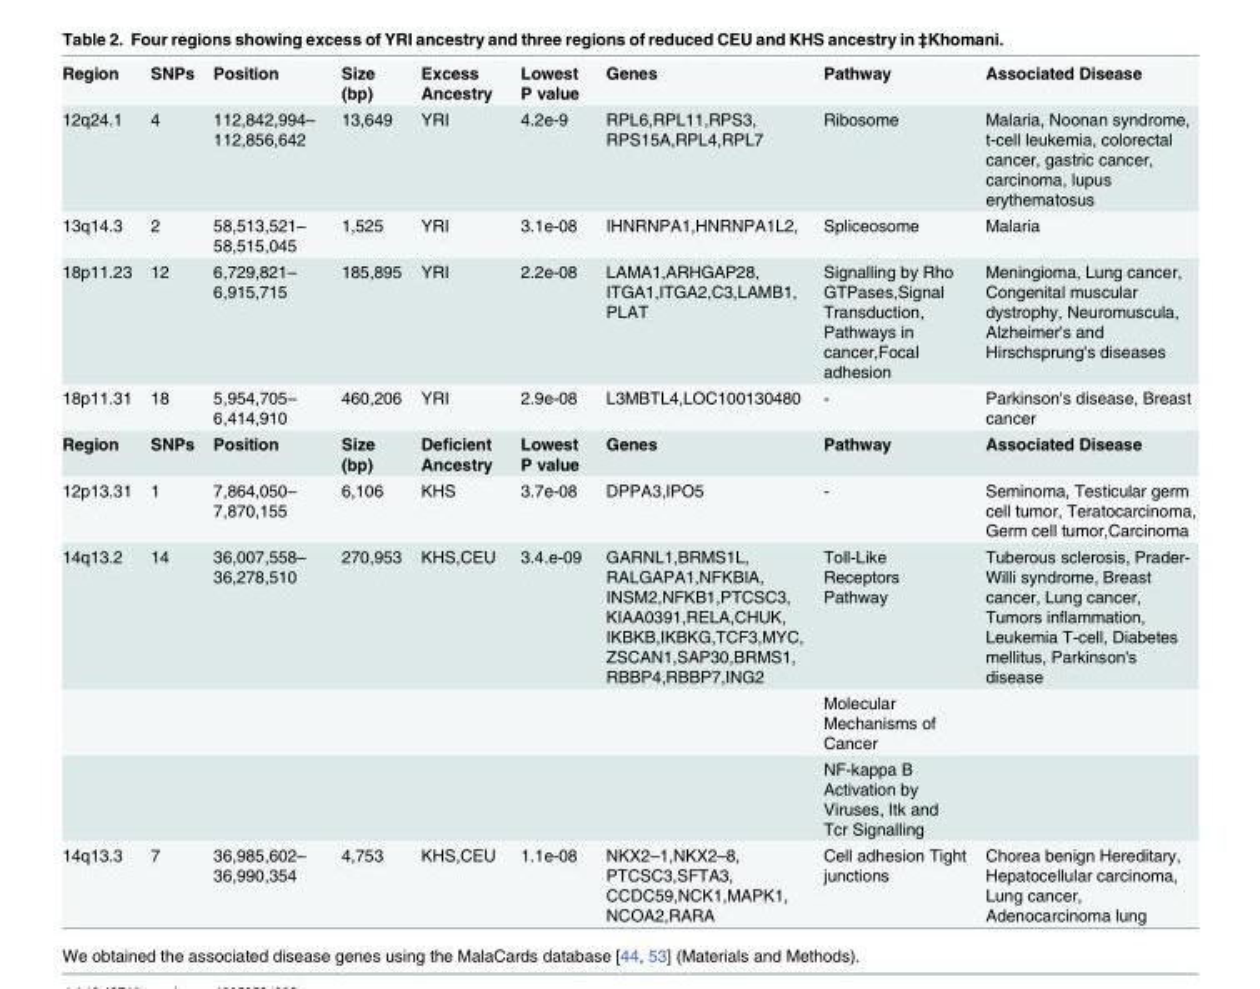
<table><tbody><tr><td>Region</td><td>SNPs</td><td>Position</td><td>Size (bp)</td><td>Excess Ancestry</td><td>Lowest P value</td><td>Genes</td><td>Pathway</td><td>Associated Disease</td></tr><tr><td>12q24.1</td><td>4</td><td>112,842,994– 112,856,642</td><td>13,649</td><td>YRI</td><td>4.2e-9</td><td>RPL6,RPL11,RPS3, RPS15A,RPL4,RPL7</td><td>Ribosome</td><td>Malaria, Noonan syndrome, t-cell leukemia, colorectal cancer, gastric cancer, carcinoma, lupus erythematosus</td></tr><tr><td>13q14.3</td><td>2</td><td>58,513,521– 58,515,045</td><td>1,525</td><td>YRI</td><td>3.1e-08</td><td>IHNRNPA1,HNRNPA1L2,</td><td>Spliceosome</td><td>Malaria</td></tr><tr><td>18p11.23</td><td>12</td><td>6,729,821– 6,915,715</td><td>185,895</td><td>YRI</td><td>2.2e-08</td><td>LAMA1,ARHGAP28, ITGA1,ITGA2,C3,LAMB1, PLAT</td><td>Signalling by Rho GTPases,Signal Transduction, Pathways in cancer,Focal adhesion</td><td>Meningioma, Lung cancer, Congenital muscular dystrophy, Neuromuscula, Alzheimer&#x27;s and Hirschsprung&#x27;s diseases</td></tr><tr><td>18p11.31</td><td>18</td><td>5,954,705– 6,414,910</td><td>460,206</td><td>YRI</td><td>2.9e-08</td><td>L3MBTL4,LOC100130480</td><td>-</td><td>Parkinson&#x27;s disease, Breast cancer</td></tr><tr><td>Region</td><td>SNPs</td><td>Position</td><td>Size (bp)</td><td>Deficient Ancestry</td><td>Lowest P value</td><td>Genes</td><td>Pathway</td><td>Associated Disease</td></tr><tr><td>12p13.31</td><td>1</td><td>7,864,050– 7,870,155</td><td>6,106</td><td>KHS</td><td>3.7e-08</td><td>DPPA3,IPO5</td><td>-</td><td>Seminoma, Testicular germ cell tumor, Teratocarcinoma, Germ cell tumor,Carcinoma</td></tr><tr><td rowspan="3">14q13.2</td><td>14</td><td>36,007,558– 36,278,510</td><td>270,953</td><td>KHS,CEU</td><td>3.4.e-09</td><td>GARNL1,BRMS1L, RALGAPA1,NFKBIA, INSM2,NFKB1,PTCSC3, KIAA0391,RELA,CHUK, IKBKB,IKBKG,TCF3,MYC, ZSCAN1,SAP30,BRMS1, RBBP4,RBBP7,ING2</td><td>Toll-Like Receptors Pathway</td><td>Tuberous sclerosis, Prader- Willi syndrome, Breast cancer, Lung cancer, Tumors inflammation, Leukemia T-cell, Diabetes mellitus, Parkinson&#x27;s disease</td></tr><tr><td></td><td></td><td></td><td></td><td></td><td></td><td>Molecular Mechanisms of Cancer</td><td></td></tr><tr><td></td><td></td><td></td><td></td><td></td><td></td><td>NF-kappa B Activation by Viruses, Itk and Tcr Signalling</td><td></td></tr><tr><td>14q13.3</td><td>7</td><td>36,985,602– 36,990,354</td><td>4,753</td><td>KHS,CEU</td><td>1.1e-08</td><td>NKX2–1,NKX2–8, PTCSC3,SFTA3, CCDC59,NCK1,MAPK1, NCOA2,RARA</td><td>Cell adhesion Tight junctions</td><td>Chorea benign Hereditary, Hepatocellular carcinoma, Lung cancer, Adenocarcinoma lung</td></tr></tbody></table>